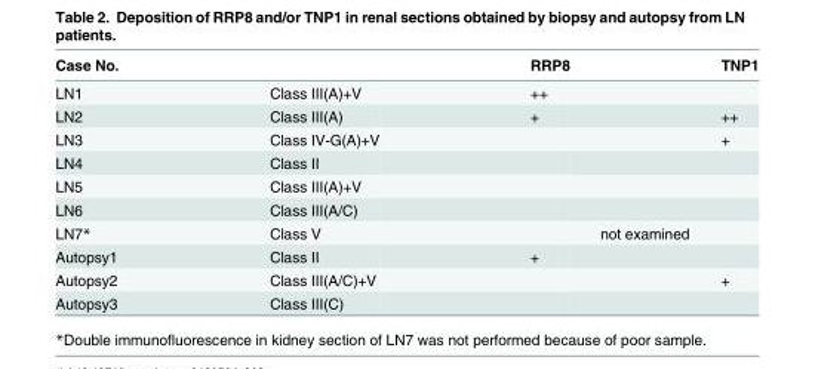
<table><thead><tr><td>Case No.</td><td></td><td>RRP8</td><td>TNP1</td></tr></thead><tbody><tr><td>LN1</td><td>Class III(A)+V</td><td>++</td><td></td></tr><tr><td>LN2</td><td>Class III(A)</td><td>+</td><td>++</td></tr><tr><td>LN3</td><td>Class IV-G(A)+V</td><td></td><td>+</td></tr><tr><td>LN4</td><td>Class II</td><td></td><td></td></tr><tr><td>LN5</td><td>Class III(A)+V</td><td></td><td></td></tr><tr><td>LN6</td><td>Class III(A/C)</td><td></td><td></td></tr><tr><td>LN7*</td><td>Class V</td><td colspan="2">not examined</td></tr><tr><td>Autopsy1</td><td>Class II</td><td>+</td><td></td></tr><tr><td>Autopsy2</td><td>Class III(A/C)+V</td><td></td><td>+</td></tr><tr><td>Autopsy3</td><td>Class III(C)</td><td></td><td></td></tr></tbody></table>